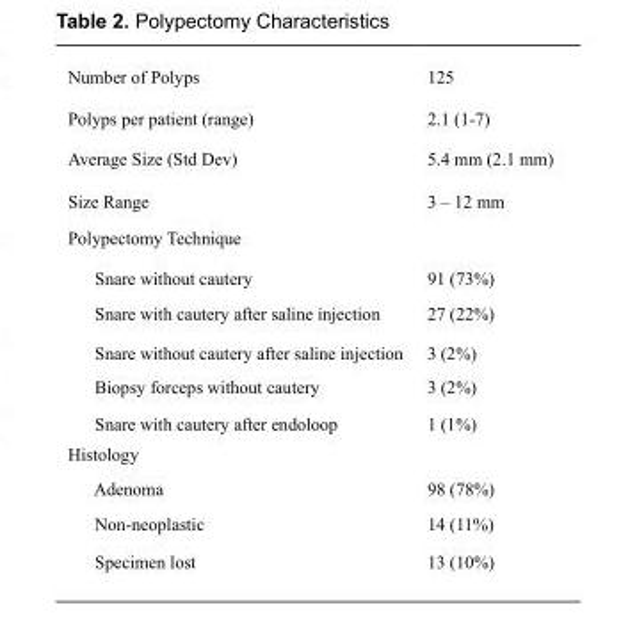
<table><tbody><tr><td>Number of Polyps</td><td>125</td></tr><tr><td>Polyps per patient (range)</td><td>2.1 (1-7)</td></tr><tr><td>Average Size (Std Dev)</td><td>5.4 mm (2.1 mm)</td></tr><tr><td>Size Range</td><td>3 – 12 mm</td></tr><tr><td colspan="2">Polypectomy Technique</td></tr><tr><td>Snare without cautery</td><td>91 (73%)</td></tr><tr><td>Snare with cautery after saline injection</td><td>27 (22%)</td></tr><tr><td>Snare without cautery after saline injection</td><td>3 (2%)</td></tr><tr><td>Biopsy forceps without cautery</td><td>3 (2%)</td></tr><tr><td>Snare with cautery after endoloop</td><td>1 (1%)</td></tr><tr><td colspan="2">Histology</td></tr><tr><td>Adenoma</td><td>98 (78%)</td></tr><tr><td>Non-neoplastic</td><td>14 (11%)</td></tr><tr><td>Specimen lost</td><td>13 (10%)</td></tr></tbody></table>